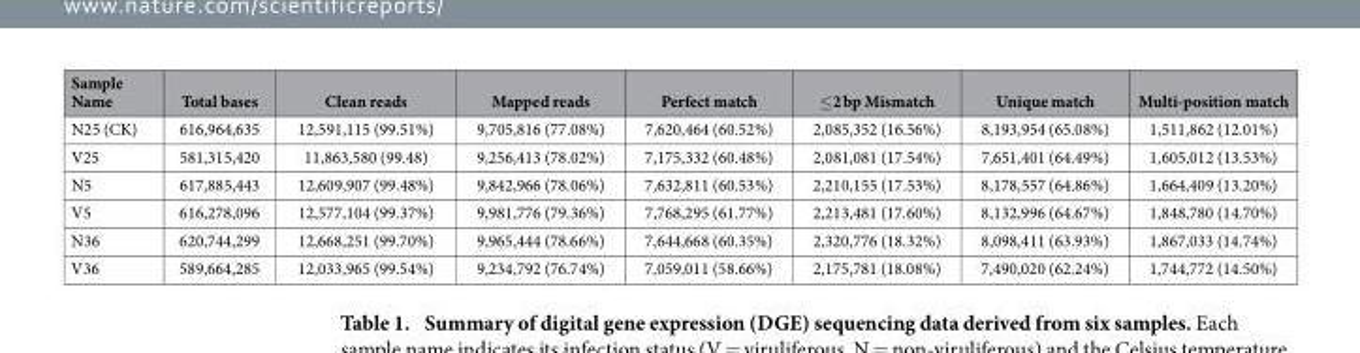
<table><thead><tr><td>Sample Name</td><td>Total bases</td><td>Clean reads</td><td>Mapped reads</td><td>Perfect match</td><td>≤ 2 bp Mismatch</td><td>Unique match</td><td>Multi-position match</td></tr></thead><tbody><tr><td>N25 (CK)</td><td>616,964,635</td><td>12,591,115 (99.51%)</td><td>9,705,816 (77.08%)</td><td>7,620,464 (60.52%)</td><td>2,085,352 (16.56%)</td><td>8,193,954 (65.08%)</td><td>1,511,862 (12.01%)</td></tr><tr><td>V25</td><td>581,315,420</td><td>11,863,580 (99.48)</td><td>9,256,413 (78.02%)</td><td>7,175,332 (60.48%)</td><td>2,081,081 (17.54%)</td><td>7,651,401 (64.49%)</td><td>1,605,012 (13.53%)</td></tr><tr><td>N5</td><td>617,885,443</td><td>12,609,907 (99.48%)</td><td>9,842,966 (78.06%)</td><td>7,632,811 (60.53%)</td><td>2,210,155 (17.53%)</td><td>8,178,557 (64.86%)</td><td>1,664,409 (13.20%)</td></tr><tr><td>V5</td><td>616,278,096</td><td>12,577,104 (99.37%)</td><td>9,981,776 (79.36%)</td><td>7,768,295 (61.77%)</td><td>2,213,481 (17.60%)</td><td>8,132,996 (64.67%)</td><td>1,848,780 (14.70%)</td></tr><tr><td>N36</td><td>620,744,299</td><td>12,668,251 (99.70%)</td><td>9,965,444 (78.66%)</td><td>7,644,668 (60.35%)</td><td>2,320,776 (18.32%)</td><td>8,098,411 (63.93%)</td><td>1,867,033 (14.74%)</td></tr><tr><td>V36</td><td>589,664,285</td><td>12,033,965 (99.54%)</td><td>9,234,792 (76.74%)</td><td>7,059,011 (58.66%)</td><td>2,175,781 (18.08%)</td><td>7,490,020 (62.24%)</td><td>1,744,772 (14.50%)</td></tr></tbody></table>